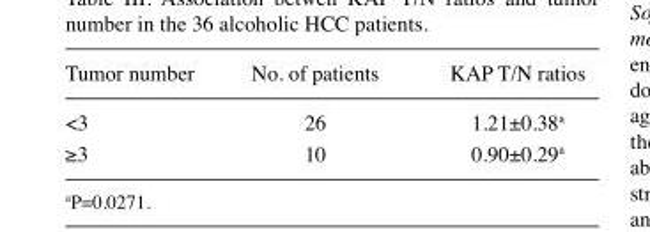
<table><thead><tr><td>Tumor number</td><td>No. of patients</td><td>KAP T/N ratios</td></tr></thead><tbody><tr><td>&lt;3</td><td>26</td><td>1.21±0.38<sup>a</sup></td></tr><tr><td>≥3</td><td>10</td><td>0.90±0.29<sup>a</sup></td></tr></tbody></table>